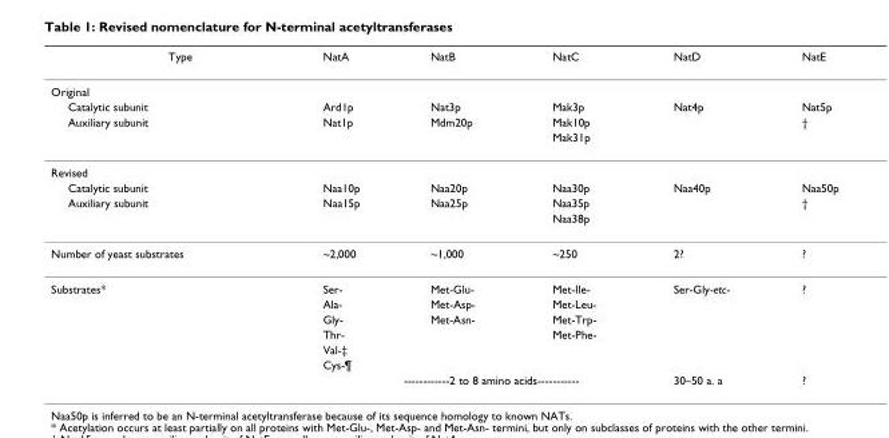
<table><thead><tr><td>Type</td><td>NatA</td><td>NatB</td><td>NatC</td><td>NatD</td><td>NatE</td></tr></thead><tbody><tr><td colspan="6">Original</td></tr><tr><td>Catalytic subunit</td><td>Ard1p</td><td>Nat3p</td><td>Mak3p</td><td>Nat4p</td><td>Nat5p</td></tr><tr><td rowspan="2">Auxiliary subunit</td><td>Nat1p</td><td>Mdm20p</td><td>Mak10p</td><td></td><td>†</td></tr><tr><td></td><td></td><td>Mak31p</td><td></td><td></td></tr><tr><td colspan="6">Revised</td></tr><tr><td>Catalytic subunit</td><td>Naa10p</td><td>Naa20p</td><td>Naa30p</td><td>Naa40p</td><td>Naa50p</td></tr><tr><td rowspan="2">Auxiliary subunit</td><td>Naa15p</td><td>Naa25p</td><td>Naa35p</td><td></td><td>†</td></tr><tr><td></td><td></td><td>Naa38p</td><td></td><td></td></tr><tr><td>Number of yeast substrates</td><td>~2,000</td><td>~1,000</td><td>~250</td><td>2?</td><td>?</td></tr><tr><td rowspan="7">Substrates*</td><td>Ser-</td><td>Met-Glu-</td><td>Met-Ile-</td><td>Ser-Gly-etc-</td><td>?</td></tr><tr><td>Ala-</td><td>Met-Asp-</td><td>Met-Leu-</td><td></td><td></td></tr><tr><td>Gly-</td><td>Met-Asn-</td><td>Met-Trp-</td><td></td><td></td></tr><tr><td>Thr-</td><td></td><td>Met-Phe-</td><td></td><td></td></tr><tr><td>Val-‡</td><td></td><td></td><td></td><td></td></tr><tr><td>Cys-¶</td><td></td><td></td><td></td><td></td></tr><tr><td colspan="3">------------2 to 8 amino acids-----------</td><td>30–50 a. a</td><td>?</td></tr></tbody></table>